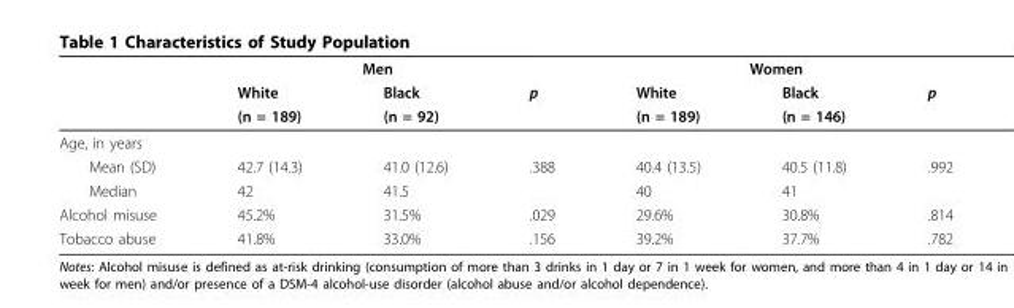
<table><thead><tr><td rowspan="3"></td><td colspan="2">Men</td><td rowspan="3">p</td><td colspan="2">Women</td><td rowspan="3">p</td></tr><tr><td rowspan="2">White (n = 189)</td><td rowspan="2">Black (n = 92)</td><td rowspan="2">White (n = 189)</td><td rowspan="2">Black (n = 146)</td></tr><tr></tr></thead><tbody><tr><td colspan="7">Age, in years</td></tr><tr><td>Mean (SD)</td><td>42.7 (14.3)</td><td>41.0 (12.6)</td><td>.388</td><td>40.4 (13.5)</td><td>40.5 (11.8)</td><td>.992</td></tr><tr><td>Median</td><td>42</td><td>41.5</td><td></td><td>40</td><td>41</td><td></td></tr><tr><td>Alcohol misuse</td><td>45.2%</td><td>31.5%</td><td>.029</td><td>29.6%</td><td>30.8%</td><td>.814</td></tr><tr><td>Tobacco abuse</td><td>41.8%</td><td>33.0%</td><td>.156</td><td>39.2%</td><td>37.7%</td><td>.782</td></tr></tbody></table>